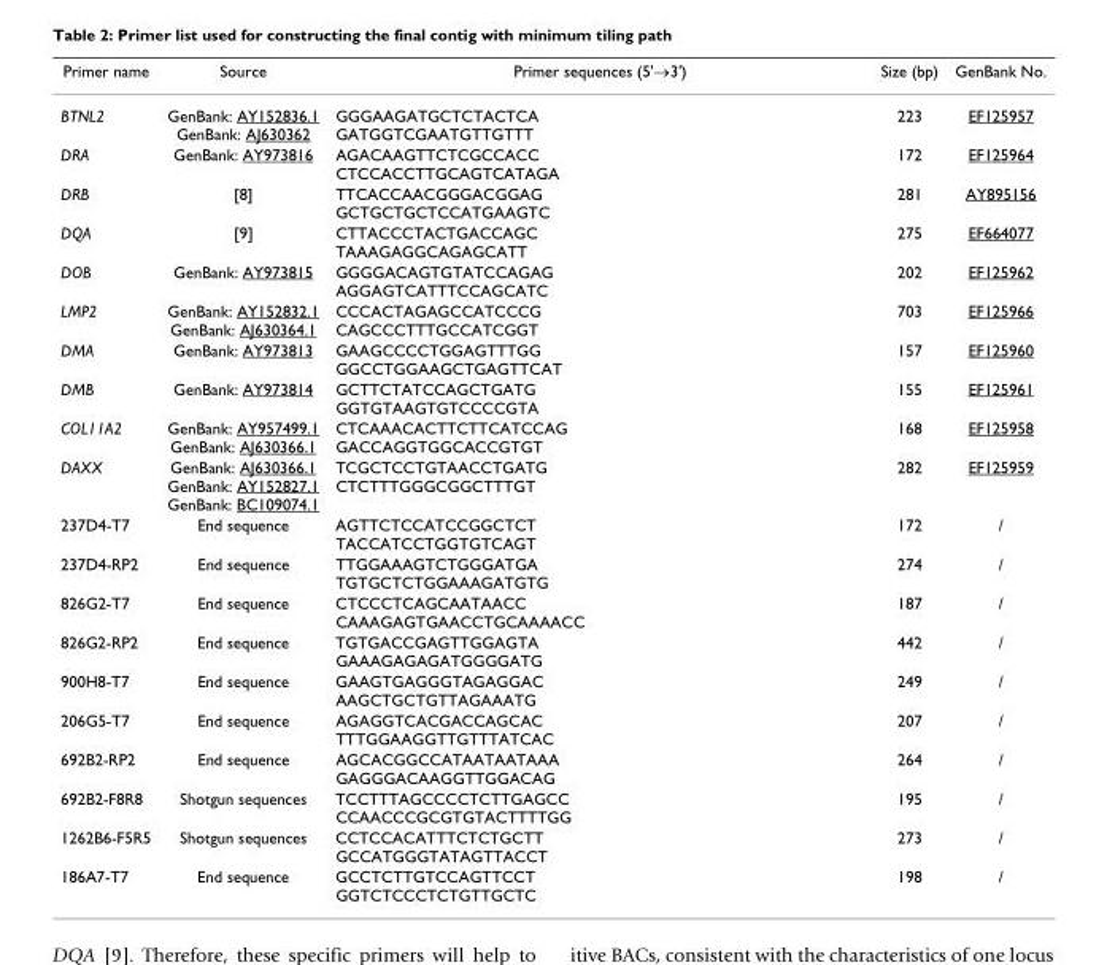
<table><thead><tr><td>Primer name</td><td>Source</td><td>Primer sequences (5&#x27;→3&#x27;)</td><td>Size (bp)</td><td>GenBank No.</td></tr></thead><tbody><tr><td>BTNL2</td><td>GenBank: AY152836.1 GenBank: AJ630362</td><td>GGGAAGATGCTCTACTCA GATGGTCGAATGTTGTTT</td><td>223</td><td>EF125957</td></tr><tr><td>DRA</td><td>GenBank: AY973816</td><td>AGACAAGTTCTCGCCACC CTCCACCTTGCAGTCATAGA</td><td>172</td><td>EF125964</td></tr><tr><td>DRB</td><td>[8]</td><td>TTCACCAACGGGACGGAG GCTGCTGCTCCATGAAGTC</td><td>281</td><td>AY895156</td></tr><tr><td>DQA</td><td>[9]</td><td>CTTACCCTACTGACCAGC TAAAGAGGCAGAGCATT</td><td>275</td><td>EF664077</td></tr><tr><td>DOB</td><td>GenBank: AY973815</td><td>GGGGACAGTGTATCCAGAG AGGAGTCATTTCCAGCATC</td><td>202</td><td>EF125962</td></tr><tr><td>LMP2</td><td>GenBank: AY152832.1 GenBank: AJ630364.1</td><td>CCCACTAGAGCCATCCCG CAGCCCTTTGCCATCGGT</td><td>703</td><td>EF125966</td></tr><tr><td>DMA</td><td>GenBank: AY973813</td><td>GAAGCCCCTGGAGTTTGG GGCCTGGAAGCTGAGTTCAT</td><td>157</td><td>EF125960</td></tr><tr><td>DMB</td><td>GenBank: AY973814</td><td>GCTTCTATCCAGCTGATG GGTGTAAGTGTCCCCGTA</td><td>155</td><td>EF125961</td></tr><tr><td>COL11A2</td><td>GenBank: AY957499.1 GenBank: AJ630366.1</td><td>CTCAAACACTTCTTCATCCAG GACCAGGTGGCACCGTGT</td><td>168</td><td>EF125958</td></tr><tr><td>DAXX</td><td>GenBank: AJ630366.1 GenBank: AY152827.1 GenBank: BC109074.1</td><td>TCGCTCCTGTAACCTGATG CTCTTTGGGCGGCTTTGT</td><td>282</td><td>EF125959</td></tr><tr><td>237D4-T7</td><td>End sequence</td><td>AGTTCTCCATCCGGCTCT TACCATCCTGGTGTCAGT</td><td>172</td><td>/</td></tr><tr><td>237D4-RP2</td><td>End sequence</td><td>TTGGAAAGTCTGGGATGA TGTGCTCTGGAAAGATGTG</td><td>274</td><td>/</td></tr><tr><td>826G2-T7</td><td>End sequence</td><td>CTCCCTCAGCAATAACC CAAAGAGTGAACCTGCAAAACC</td><td>187</td><td>/</td></tr><tr><td>826G2-RP2</td><td>End sequence</td><td>TGTGACCGAGTTGGAGTA GAAAGAGAGATGGGGATG</td><td>442</td><td>/</td></tr><tr><td>900H8-T7</td><td>End sequence</td><td>GAAGTGAGGGTAGAGGAC AAGCTGCTGTTAGAAATG</td><td>249</td><td>/</td></tr><tr><td>206G5-T7</td><td>End sequence</td><td>AGAGGTCACGACCAGCAC TTTGGAAGGTTGTTTATCAC</td><td>207</td><td>/</td></tr><tr><td>692B2-RP2</td><td>End sequence</td><td>AGCACGGCCATAATAATAAA GAGGGACAAGGTTGGACAG</td><td>264</td><td>/</td></tr><tr><td>692B2-F8R8</td><td>Shotgun sequences</td><td>TCCTTTAGCCCCTCTTGAGCC CCAACCCGCGTGTACTTTTGG</td><td>195</td><td>/</td></tr><tr><td>1262B6-F5R5</td><td>Shotgun sequences</td><td>CCTCCACATTTCTCTGCTT GCCATGGGTATAGTTACCT</td><td>273</td><td>/</td></tr><tr><td>186A7-T7</td><td>End sequence</td><td>GCCTCTTGTCCAGTTCCT GGTCTCCCTCTGTTGCTC</td><td>198</td><td>/</td></tr></tbody></table>